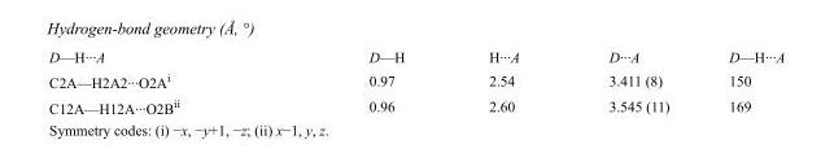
<table><tbody><tr><td>D—H···A</td><td>D—H</td><td>H···A</td><td>D···A</td><td>D—H···A</td></tr><tr><td>C2A—H2A2···O2A<sup>i</sup></td><td>0.97</td><td>2.54</td><td>3.411 (8)</td><td>150</td></tr><tr><td>C12A—H12A···O2B<sup>ii</sup></td><td>0.96</td><td>2.60</td><td>3.545 (11)</td><td>169</td></tr></tbody></table>